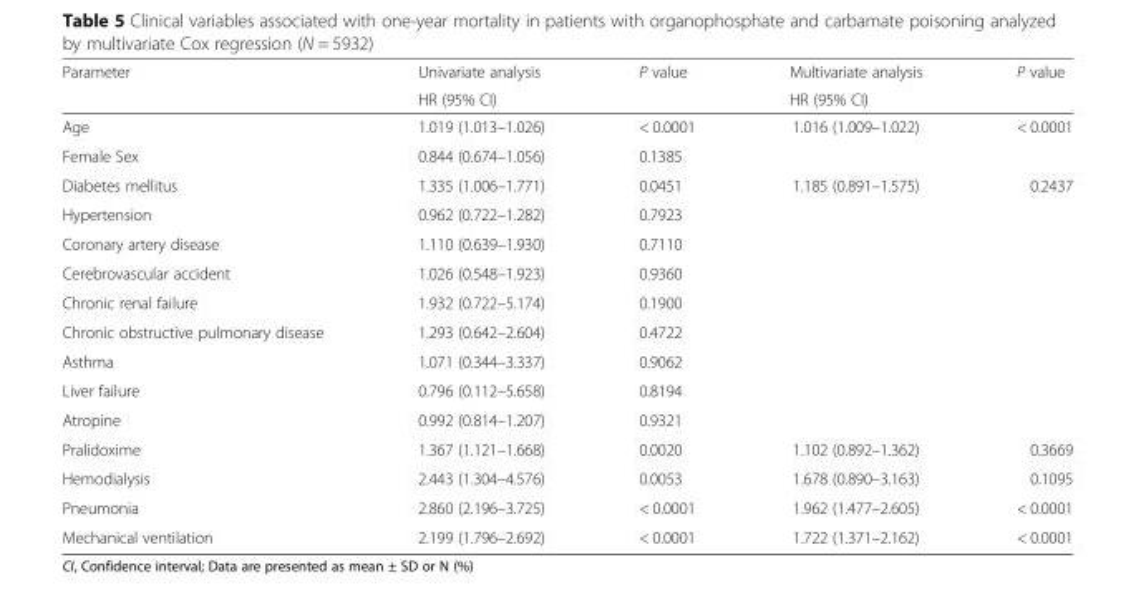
<table><thead><tr><td rowspan="2">Parameter</td><td rowspan="2">Univariate analysis HR (95% CI)</td><td rowspan="2">P value</td><td rowspan="2">Multivariate analysis HR (95% CI)</td><td rowspan="2">P value</td></tr><tr></tr></thead><tbody><tr><td>Age</td><td>1.019 (1.013–1.026)</td><td>&lt; 0.0001</td><td>1.016 (1.009–1.022)</td><td>&lt; 0.0001</td></tr><tr><td>Female Sex</td><td>0.844 (0.674–1.056)</td><td>0.1385</td><td></td><td></td></tr><tr><td>Diabetes mellitus</td><td>1.335 (1.006–1.771)</td><td>0.0451</td><td>1.185 (0.891–1.575)</td><td>0.2437</td></tr><tr><td>Hypertension</td><td>0.962 (0.722–1.282)</td><td>0.7923</td><td></td><td></td></tr><tr><td>Coronary artery disease</td><td>1.110 (0.639–1.930)</td><td>0.7110</td><td></td><td></td></tr><tr><td>Cerebrovascular accident</td><td>1.026 (0.548–1.923)</td><td>0.9360</td><td></td><td></td></tr><tr><td>Chronic renal failure</td><td>1.932 (0.722–5.174)</td><td>0.1900</td><td></td><td></td></tr><tr><td>Chronic obstructive pulmonary disease</td><td>1.293 (0.642–2.604)</td><td>0.4722</td><td></td><td></td></tr><tr><td>Asthma</td><td>1.071 (0.344–3.337)</td><td>0.9062</td><td></td><td></td></tr><tr><td>Liver failure</td><td>0.796 (0.112–5.658)</td><td>0.8194</td><td></td><td></td></tr><tr><td>Atropine</td><td>0.992 (0.814–1.207)</td><td>0.9321</td><td></td><td></td></tr><tr><td>Pralidoxime</td><td>1.367 (1.121–1.668)</td><td>0.0020</td><td>1.102 (0.892–1.362)</td><td>0.3669</td></tr><tr><td>Hemodialysis</td><td>2.443 (1.304–4.576)</td><td>0.0053</td><td>1.678 (0.890–3.163)</td><td>0.1095</td></tr><tr><td>Pneumonia</td><td>2.860 (2.196–3.725)</td><td>&lt; 0.0001</td><td>1.962 (1.477–2.605)</td><td>&lt; 0.0001</td></tr><tr><td>Mechanical ventilation</td><td>2.199 (1.796–2.692)</td><td>&lt; 0.0001</td><td>1.722 (1.371–2.162)</td><td>&lt; 0.0001</td></tr></tbody></table>